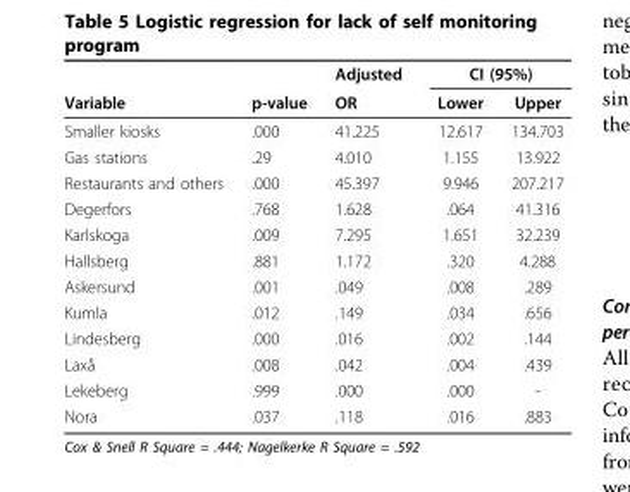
<table><thead><tr><td rowspan="2">Variable</td><td rowspan="2">p-value</td><td rowspan="2">Adjusted OR</td><td colspan="2">CI (95%)</td></tr><tr><td>Lower</td><td>Upper</td></tr></thead><tbody><tr><td>Smaller kiosks</td><td>.000</td><td>41.225</td><td>12.617</td><td>134.703</td></tr><tr><td>Gas stations</td><td>.29</td><td>4.010</td><td>1.155</td><td>13.922</td></tr><tr><td>Restaurants and others</td><td>.000</td><td>45.397</td><td>9.946</td><td>207.217</td></tr><tr><td>Degerfors</td><td>.768</td><td>1.628</td><td>.064</td><td>41.316</td></tr><tr><td>Karlskoga</td><td>.009</td><td>7.295</td><td>1.651</td><td>32.239</td></tr><tr><td>Hallsberg</td><td>.881</td><td>1.172</td><td>.320</td><td>4.288</td></tr><tr><td>Askersund</td><td>.001</td><td>.049</td><td>.008</td><td>.289</td></tr><tr><td>Kumla</td><td>.012</td><td>.149</td><td>.034</td><td>.656</td></tr><tr><td>Lindesberg</td><td>.000</td><td>.016</td><td>.002</td><td>.144</td></tr><tr><td>Laxå</td><td>.008</td><td>.042</td><td>.004</td><td>.439</td></tr><tr><td>Lekeberg</td><td>.999</td><td>.000</td><td>.000</td><td>-</td></tr><tr><td>Nora</td><td>.037</td><td>.118</td><td>.016</td><td>.883</td></tr></tbody></table>